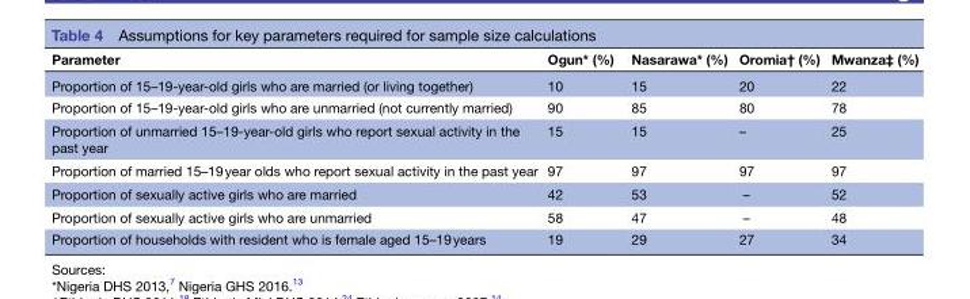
<table><thead><tr><td>Parameter</td><td>Ogun* (%)</td><td>Nasarawa* (%)</td><td>Oromia† (%)</td><td>Mwanza‡ (%)</td></tr></thead><tbody><tr><td>Proportion of 15–19-year-old girls who are married (or living together)</td><td>10</td><td>15</td><td>20</td><td>22</td></tr><tr><td>Proportion of 15–19-year-old girls who are unmarried (not currently married)</td><td>90</td><td>85</td><td>80</td><td>78</td></tr><tr><td>Proportion of unmarried 15–19-year-old girls who report sexual activity in the past year</td><td>15</td><td>15</td><td>–</td><td>25</td></tr><tr><td>Proportion of married 15–19 year olds who report sexual activity in the past year</td><td>97</td><td>97</td><td>97</td><td>97</td></tr><tr><td>Proportion of sexually active girls who are married</td><td>42</td><td>53</td><td>–</td><td>52</td></tr><tr><td>Proportion of sexually active girls who are unmarried</td><td>58</td><td>47</td><td>–</td><td>48</td></tr><tr><td>Proportion of households with resident who is female aged 15–19 years</td><td>19</td><td>29</td><td>27</td><td>34</td></tr></tbody></table>